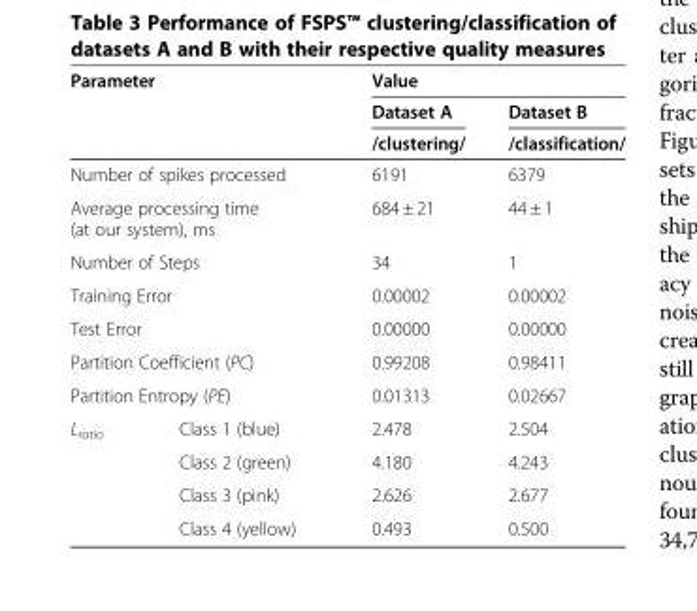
<table><thead><tr><td rowspan="3" colspan="2">Parameter</td><td colspan="2">Value</td></tr><tr><td rowspan="2">Dataset A /clustering/</td><td rowspan="2">Dataset B /classification/</td></tr><tr></tr></thead><tbody><tr><td colspan="2">Number of spikes processed</td><td>6191</td><td>6379</td></tr><tr><td colspan="2">Average processing time (at our system), ms</td><td>684 ± 21</td><td>44 ± 1</td></tr><tr><td colspan="2">Number of Steps</td><td>34</td><td>1</td></tr><tr><td colspan="2">Training Error</td><td>0.00002</td><td>0.00002</td></tr><tr><td colspan="2">Test Error</td><td>0.00000</td><td>0.00000</td></tr><tr><td colspan="2">Partition Coefficient (PC)</td><td>0.99208</td><td>0.98411</td></tr><tr><td colspan="2">Partition Entropy (PE)</td><td>0.01313</td><td>0.02667</td></tr><tr><td rowspan="4">L<sub>ratio</sub></td><td>Class 1 (blue)</td><td>2.478</td><td>2.504</td></tr><tr><td>Class 2 (green)</td><td>4.180</td><td>4.243</td></tr><tr><td>Class 3 (pink)</td><td>2.626</td><td>2.677</td></tr><tr><td>Class 4 (yellow)</td><td>0.493</td><td>0.500</td></tr></tbody></table>